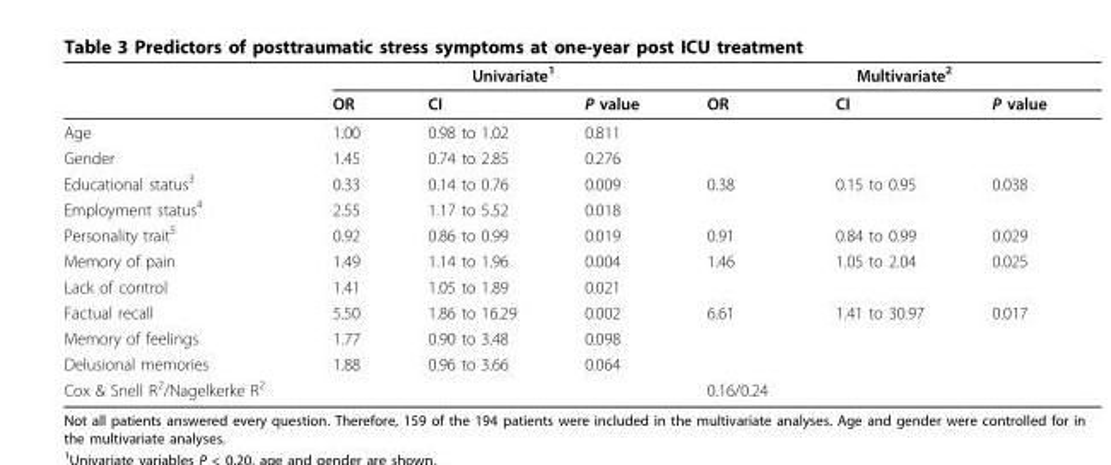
<table><thead><tr><td rowspan="2"></td><td colspan="3">Univariate<sup>1</sup></td><td colspan="3">Multivariate<sup>2</sup></td></tr><tr><td>OR</td><td>CI</td><td>P value</td><td>OR</td><td>CI</td><td>P value</td></tr></thead><tbody><tr><td>Age</td><td>1.00</td><td>0.98 to 1.02</td><td>0.811</td><td></td><td></td><td></td></tr><tr><td>Gender</td><td>1.45</td><td>0.74 to 2.85</td><td>0.276</td><td></td><td></td><td></td></tr><tr><td>Educational status<sup>3</sup></td><td>0.33</td><td>0.14 to 0.76</td><td>0.009</td><td>0.38</td><td>0.15 to 0.95</td><td>0.038</td></tr><tr><td>Employment status<sup>4</sup></td><td>2.55</td><td>1.17 to 5.52</td><td>0.018</td><td></td><td></td><td></td></tr><tr><td>Personality trait<sup>5</sup></td><td>0.92</td><td>0.86 to 0.99</td><td>0.019</td><td>0.91</td><td>0.84 to 0.99</td><td>0.029</td></tr><tr><td>Memory of pain</td><td>1.49</td><td>1.14 to 1.96</td><td>0.004</td><td>1.46</td><td>1.05 to 2.04</td><td>0.025</td></tr><tr><td>Lack of control</td><td>1.41</td><td>1.05 to 1.89</td><td>0.021</td><td></td><td></td><td></td></tr><tr><td>Factual recall</td><td>5.50</td><td>1.86 to 16.29</td><td>0.002</td><td>6.61</td><td>1.41 to 30.97</td><td>0.017</td></tr><tr><td>Memory of feelings</td><td>1.77</td><td>0.90 to 3.48</td><td>0.098</td><td></td><td></td><td></td></tr><tr><td>Delusional memories</td><td>1.88</td><td>0.96 to 3.66</td><td>0.064</td><td></td><td></td><td></td></tr><tr><td>Cox &amp; Snell R<sup>2</sup>/Nagelkerke R<sup>2</sup></td><td></td><td></td><td></td><td>0.16/0.24</td><td></td><td></td></tr></tbody></table>